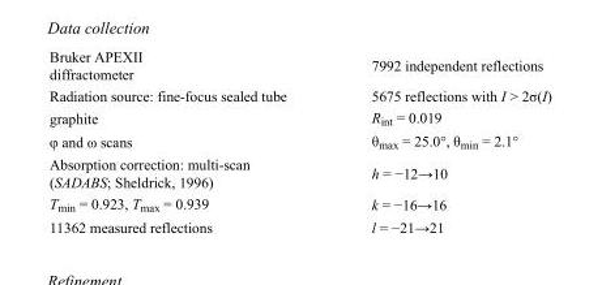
<table><tbody><tr><td>Bruker APEXII diffractometer</td><td>7992 independent reflections</td></tr><tr><td>Radiation source: fine-focus sealed tube</td><td>5675 reflections with I &gt; 2σ(I)</td></tr><tr><td>graphite</td><td>R<sub>int</sub> = 0.019</td></tr><tr><td>φ and ω scans</td><td>θ<sub>max</sub> = 25.0°, θ<sub>min</sub> = 2.1°</td></tr><tr><td>Absorption correction: multi-scan (SADABS; Sheldrick, 1996)</td><td>h = −12→10</td></tr><tr><td>T<sub>min</sub> = 0.923, T<sub>max</sub> = 0.939</td><td>k = −16→16</td></tr><tr><td>11362 measured reflections</td><td>l = −21→21</td></tr></tbody></table>